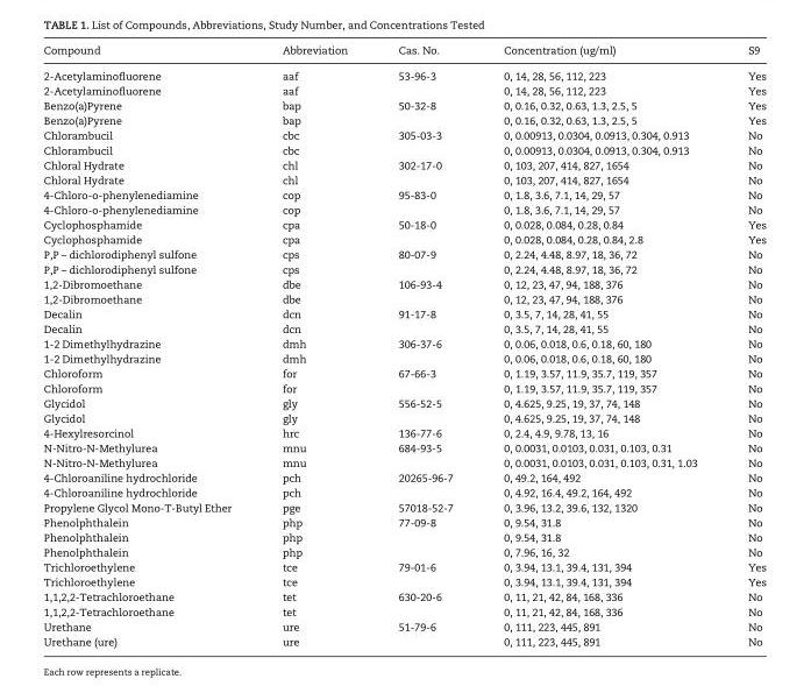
<table><thead><tr><td>Compound</td><td>Abbreviation</td><td>Cas. No.</td><td>Concentration (ug/ml)</td><td>S9</td></tr></thead><tbody><tr><td>2-Acetylaminofluorene</td><td>aaf</td><td>53-96-3</td><td>0, 14, 28, 56, 112, 223</td><td>Yes</td></tr><tr><td>2-Acetylaminofluorene</td><td>aaf</td><td></td><td>0, 14, 28, 56, 112, 223</td><td>Yes</td></tr><tr><td>Benzo(a)Pyrene</td><td>bap</td><td>50-32-8</td><td>0, 0.16, 0.32, 0.63, 1.3, 2.5, 5</td><td>Yes</td></tr><tr><td>Benzo(a)Pyrene</td><td>bap</td><td></td><td>0, 0.16, 0.32, 0.63, 1.3, 2.5, 5</td><td>Yes</td></tr><tr><td>Chlorambucil</td><td>cbc</td><td>305-03-3</td><td>0, 0.00913, 0.0304, 0.0913, 0.304, 0.913</td><td>No</td></tr><tr><td>Chlorambucil</td><td>cbc</td><td></td><td>0, 0.00913, 0.0304, 0.0913, 0.304, 0.913</td><td>No</td></tr><tr><td>Chloral Hydrate</td><td>chl</td><td>302-17-0</td><td>0, 103, 207, 414, 827, 1654</td><td>No</td></tr><tr><td>Chloral Hydrate</td><td>chl</td><td></td><td>0, 103, 207, 414, 827, 1654</td><td>No</td></tr><tr><td>4-Chloro-o-phenylenediamine</td><td>cop</td><td>95-83-0</td><td>0, 1.8, 3.6, 7.1, 14, 29, 57</td><td>No</td></tr><tr><td>4-Chloro-o-phenylenediamine</td><td>cop</td><td></td><td>0, 1.8, 3.6, 7.1, 14, 29, 57</td><td>No</td></tr><tr><td>Cyclophosphamide</td><td>cpa</td><td>50-18-0</td><td>0, 0.028, 0.084, 0.28, 0.84</td><td>Yes</td></tr><tr><td>Cyclophosphamide</td><td>cpa</td><td></td><td>0, 0.028, 0.084, 0.28, 0.84, 2.8</td><td>Yes</td></tr><tr><td>P,P – dichlorodiphenyl sulfone</td><td>cps</td><td>80-07-9</td><td>0, 2.24, 4.48, 8.97, 18, 36, 72</td><td>No</td></tr><tr><td>P,P – dichlorodiphenyl sulfone</td><td>cps</td><td></td><td>0, 2.24, 4.48, 8.97, 18, 36, 72</td><td>No</td></tr><tr><td>1,2-Dibromoethane</td><td>dbe</td><td>106-93-4</td><td>0, 12, 23, 47, 94, 188, 376</td><td>No</td></tr><tr><td>1,2-Dibromoethane</td><td>dbe</td><td></td><td>0, 12, 23, 47, 94, 188, 376</td><td>No</td></tr><tr><td>Decalin</td><td>dcn</td><td>91-17-8</td><td>0, 3.5, 7, 14, 28, 41, 55</td><td>No</td></tr><tr><td>Decalin</td><td>dcn</td><td></td><td>0, 3.5, 7, 14, 28, 41, 55</td><td>No</td></tr><tr><td>1-2 Dimethylhydrazine</td><td>dmh</td><td>306-37-6</td><td>0, 0.06, 0.018, 0.6, 0.18, 60, 180</td><td>No</td></tr><tr><td>1-2 Dimethylhydrazine</td><td>dmh</td><td></td><td>0, 0.06, 0.018, 0.6, 0.18, 60, 180</td><td>No</td></tr><tr><td>Chloroform</td><td>for</td><td>67-66-3</td><td>0, 1.19, 3.57, 11.9, 35.7, 119, 357</td><td>No</td></tr><tr><td>Chloroform</td><td>for</td><td></td><td>0, 1.19, 3.57, 11.9, 35.7, 119, 357</td><td>No</td></tr><tr><td>Glycidol</td><td>gly</td><td>556-52-5</td><td>0, 4.625, 9.25, 19, 37, 74, 148</td><td>No</td></tr><tr><td>Glycidol</td><td>gly</td><td></td><td>0, 4.625, 9.25, 19, 37, 74, 148</td><td>No</td></tr><tr><td>4-Hexylresorcinol</td><td>hrc</td><td>136-77-6</td><td>0, 2.4, 4.9, 9.78, 13, 16</td><td>No</td></tr><tr><td>N-Nitro-N-Methylurea</td><td>mnu</td><td>684-93-5</td><td>0, 0.0031, 0.0103, 0.031, 0.103, 0.31</td><td>No</td></tr><tr><td>N-Nitro-N-Methylurea</td><td>mnu</td><td></td><td>0, 0.0031, 0.0103, 0.031, 0.103, 0.31, 1.03</td><td>No</td></tr><tr><td>4-Chloroaniline hydrochloride</td><td>pch</td><td>20265-96-7</td><td>0, 49.2, 164, 492</td><td>No</td></tr><tr><td>4-Chloroaniline hydrochloride</td><td>pch</td><td></td><td>0, 4.92, 16.4, 49.2, 164, 492</td><td>No</td></tr><tr><td>Propylene Glycol Mono-T-Butyl Ether</td><td>pge</td><td>57018-52-7</td><td>0, 3.96, 13.2, 39.6, 132, 1320</td><td>No</td></tr><tr><td>Phenolphthalein</td><td>php</td><td>77-09-8</td><td>0, 9.54, 31.8</td><td>No</td></tr><tr><td>Phenolphthalein</td><td>php</td><td></td><td>0, 9.54, 31.8</td><td>No</td></tr><tr><td>Phenolphthalein</td><td>php</td><td></td><td>0, 7.96, 16, 32</td><td>No</td></tr><tr><td>Trichloroethylene</td><td>tce</td><td>79-01-6</td><td>0, 3.94, 13.1, 39.4, 131, 394</td><td>Yes</td></tr><tr><td>Trichloroethylene</td><td>tce</td><td></td><td>0, 3.94, 13.1, 39.4, 131, 394</td><td>Yes</td></tr><tr><td>1,1,2,2-Tetrachloroethane</td><td>tet</td><td>630-20-6</td><td>0, 11, 21, 42, 84, 168, 336</td><td>No</td></tr><tr><td>1,1,2,2-Tetrachloroethane</td><td>tet</td><td></td><td>0, 11, 21, 42, 84, 168, 336</td><td>No</td></tr><tr><td>Urethane</td><td>ure</td><td>51-79-6</td><td>0, 111, 223, 445, 891</td><td>No</td></tr><tr><td>Urethane (ure)</td><td>ure</td><td></td><td>0, 111, 223, 445, 891</td><td>No</td></tr></tbody></table>